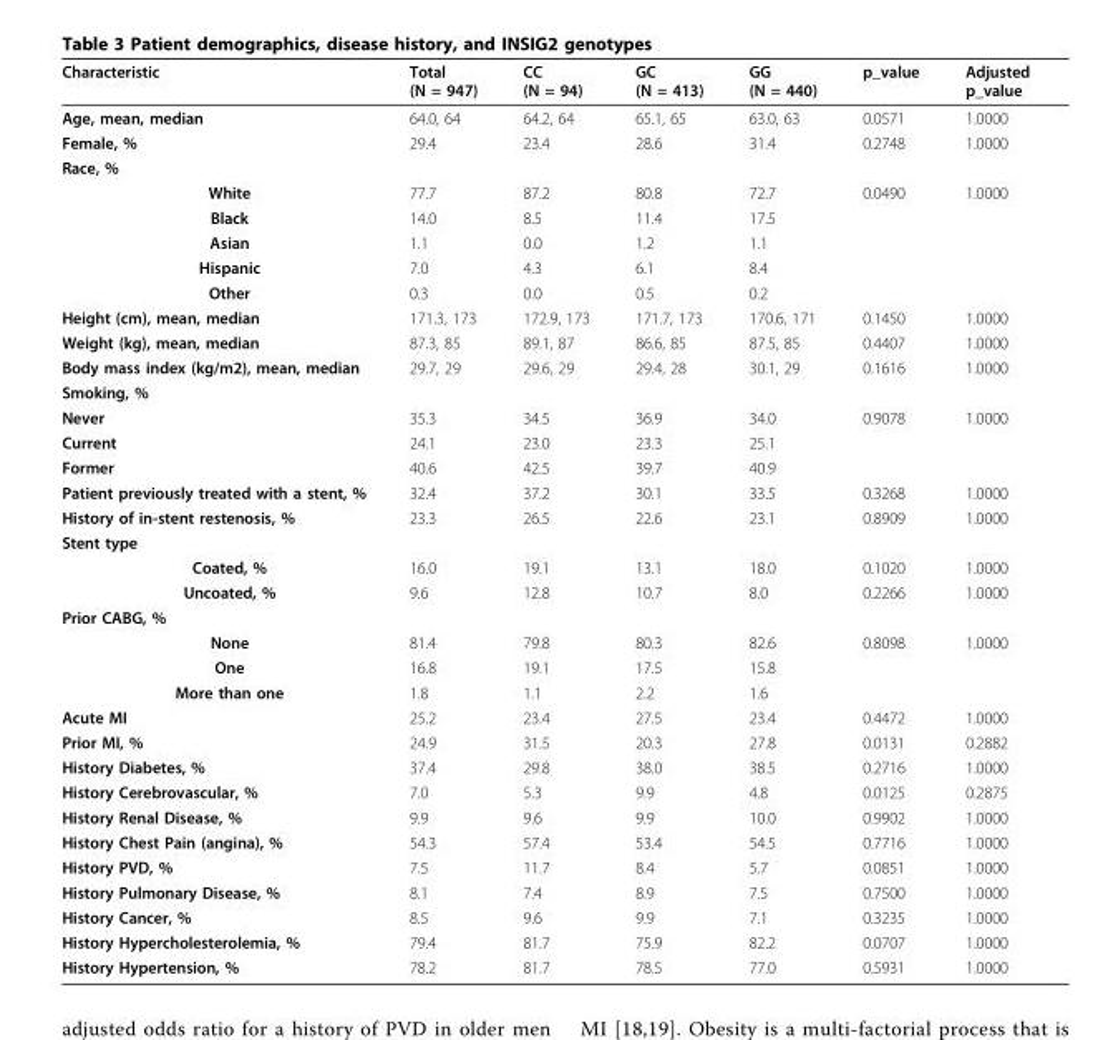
<table><thead><tr><td>Characteristic</td><td>Total (N = 947)</td><td>CC (N = 94)</td><td>GC (N = 413)</td><td>GG (N = 440)</td><td>p_value</td><td>Adjusted p_value</td></tr></thead><tbody><tr><td>Age, mean, median</td><td>64.0, 64</td><td>64.2, 64</td><td>65.1, 65</td><td>63.0, 63</td><td>0.0571</td><td>1.0000</td></tr><tr><td>Female, %</td><td>29.4</td><td>23.4</td><td>28.6</td><td>31.4</td><td>0.2748</td><td>1.0000</td></tr><tr><td colspan="7">Race, %</td></tr><tr><td>White</td><td>77.7</td><td>87.2</td><td>80.8</td><td>72.7</td><td>0.0490</td><td>1.0000</td></tr><tr><td>Black</td><td>14.0</td><td>8.5</td><td>11.4</td><td>17.5</td><td></td><td></td></tr><tr><td>Asian</td><td>1.1</td><td>0.0</td><td>1.2</td><td>1.1</td><td></td><td></td></tr><tr><td>Hispanic</td><td>7.0</td><td>4.3</td><td>6.1</td><td>8.4</td><td></td><td></td></tr><tr><td>Other</td><td>0.3</td><td>0.0</td><td>0.5</td><td>0.2</td><td></td><td></td></tr><tr><td>Height (cm), mean, median</td><td>171.3, 173</td><td>172.9, 173</td><td>171.7, 173</td><td>170.6, 171</td><td>0.1450</td><td>1.0000</td></tr><tr><td>Weight (kg), mean, median</td><td>87.3, 85</td><td>89.1, 87</td><td>86.6, 85</td><td>87.5, 85</td><td>0.4407</td><td>1.0000</td></tr><tr><td>Body mass index (kg/m2), mean, median</td><td>29.7, 29</td><td>29.6, 29</td><td>29.4, 28</td><td>30.1, 29</td><td>0.1616</td><td>1.0000</td></tr><tr><td colspan="7">Smoking, %</td></tr><tr><td>Never</td><td>35.3</td><td>34.5</td><td>36.9</td><td>34.0</td><td>0.9078</td><td>1.0000</td></tr><tr><td>Current</td><td>24.1</td><td>23.0</td><td>23.3</td><td>25.1</td><td></td><td></td></tr><tr><td>Former</td><td>40.6</td><td>42.5</td><td>39.7</td><td>40.9</td><td></td><td></td></tr><tr><td>Patient previously treated with a stent, %</td><td>32.4</td><td>37.2</td><td>30.1</td><td>33.5</td><td>0.3268</td><td>1.0000</td></tr><tr><td>History of in-stent restenosis, %</td><td>23.3</td><td>26.5</td><td>22.6</td><td>23.1</td><td>0.8909</td><td>1.0000</td></tr><tr><td colspan="7">Stent type</td></tr><tr><td>Coated, %</td><td>16.0</td><td>19.1</td><td>13.1</td><td>18.0</td><td>0.1020</td><td>1.0000</td></tr><tr><td>Uncoated, %</td><td>9.6</td><td>12.8</td><td>10.7</td><td>8.0</td><td>0.2266</td><td>1.0000</td></tr><tr><td colspan="7">Prior CABG, %</td></tr><tr><td>None</td><td>81.4</td><td>79.8</td><td>80.3</td><td>82.6</td><td>0.8098</td><td>1.0000</td></tr><tr><td>One</td><td>16.8</td><td>19.1</td><td>17.5</td><td>15.8</td><td></td><td></td></tr><tr><td>More than one</td><td>1.8</td><td>1.1</td><td>2.2</td><td>1.6</td><td></td><td></td></tr><tr><td>Acute MI</td><td>25.2</td><td>23.4</td><td>27.5</td><td>23.4</td><td>0.4472</td><td>1.0000</td></tr><tr><td>Prior MI, %</td><td>24.9</td><td>31.5</td><td>20.3</td><td>27.8</td><td>0.0131</td><td>0.2882</td></tr><tr><td>History Diabetes, %</td><td>37.4</td><td>29.8</td><td>38.0</td><td>38.5</td><td>0.2716</td><td>1.0000</td></tr><tr><td>History Cerebrovascular, %</td><td>7.0</td><td>5.3</td><td>9.9</td><td>4.8</td><td>0.0125</td><td>0.2875</td></tr><tr><td>History Renal Disease, %</td><td>9.9</td><td>9.6</td><td>9.9</td><td>10.0</td><td>0.9902</td><td>1.0000</td></tr><tr><td>History Chest Pain (angina), %</td><td>54.3</td><td>57.4</td><td>53.4</td><td>54.5</td><td>0.7716</td><td>1.0000</td></tr><tr><td>History PVD, %</td><td>7.5</td><td>11.7</td><td>8.4</td><td>5.7</td><td>0.0851</td><td>1.0000</td></tr><tr><td>History Pulmonary Disease, %</td><td>8.1</td><td>7.4</td><td>8.9</td><td>7.5</td><td>0.7500</td><td>1.0000</td></tr><tr><td>History Cancer, %</td><td>8.5</td><td>9.6</td><td>9.9</td><td>7.1</td><td>0.3235</td><td>1.0000</td></tr><tr><td>History Hypercholesterolemia, %</td><td>79.4</td><td>81.7</td><td>75.9</td><td>82.2</td><td>0.0707</td><td>1.0000</td></tr><tr><td>History Hypertension, %</td><td>78.2</td><td>81.7</td><td>78.5</td><td>77.0</td><td>0.5931</td><td>1.0000</td></tr></tbody></table>